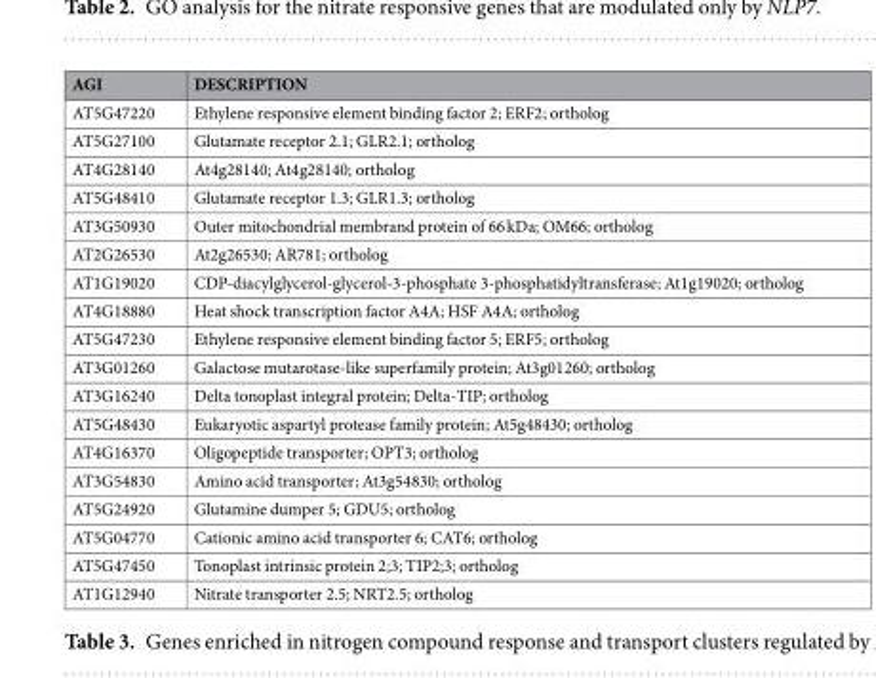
<table><thead><tr><td>AGI</td><td>DESCRIPTION</td></tr></thead><tbody><tr><td>AT5G47220</td><td>Ethylene responsive element binding factor 2; ERF2; ortholog</td></tr><tr><td>AT5G27100</td><td>Glutamate receptor 2.1; GLR2.1; ortholog</td></tr><tr><td>AT4G28140</td><td>At4g28140; At4g28140; ortholog</td></tr><tr><td>AT5G48410</td><td>Glutamate receptor 1.3; GLR1.3; ortholog</td></tr><tr><td>AT3G50930</td><td>Outer mitochondrial membrand protein of 66 kDa; OM66; ortholog</td></tr><tr><td>AT2G26530</td><td>At2g26530; AR781; ortholog</td></tr><tr><td>AT1G19020</td><td>CDP-diacylglycerol-glycerol-3-phosphate 3-phosphatidyltransferase; At1g19020; ortholog</td></tr><tr><td>AT4G18880</td><td>Heat shock transcription factor A4A; HSF A4A; ortholog</td></tr><tr><td>AT5G47230</td><td>Ethylene responsive element binding factor 5; ERF5; ortholog</td></tr><tr><td>AT3G01260</td><td>Galactose mutarotase-like superfamily protein; At3g01260; ortholog</td></tr><tr><td>AT3G16240</td><td>Delta tonoplast integral protein; Delta-TIP; ortholog</td></tr><tr><td>AT5G48430</td><td>Eukaryotic aspartyl protease family protein; At5g48430; ortholog</td></tr><tr><td>AT4G16370</td><td>Oligopeptide transporter; OPT3; ortholog</td></tr><tr><td>AT3G54830</td><td>Amino acid transporter; At3g54830; ortholog</td></tr><tr><td>AT5G24920</td><td>Glutamine dumper 5; GDU5; ortholog</td></tr><tr><td>AT5G04770</td><td>Cationic amino acid transporter 6; CAT6; ortholog</td></tr><tr><td>AT5G47450</td><td>Tonoplast intrinsic protein 2;3; TIP2;3; ortholog</td></tr><tr><td>AT1G12940</td><td>Nitrate transporter 2.5; NRT2.5; ortholog</td></tr></tbody></table>